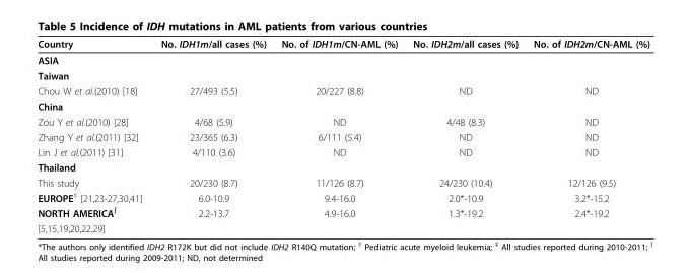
<table><thead><tr><td>Country</td><td>No. IDH1m/all cases (%)</td><td>No. of IDH1m/CN-AML (%)</td><td>No. IDH2m/all cases (%)</td><td>No. of IDH2m/CN-AML (%)</td></tr></thead><tbody><tr><td colspan="5">ASIA</td></tr><tr><td colspan="5">Taiwan</td></tr><tr><td>Chou W et al.(2010) [18]</td><td>27/493 (5.5)</td><td>20/227 (8.8)</td><td>ND</td><td>ND</td></tr><tr><td colspan="5">China</td></tr><tr><td>Zou Y et al.(2010) [28]</td><td>4/68 (5.9)</td><td>ND</td><td>4/48 (8.3)</td><td>ND</td></tr><tr><td>Zhang Y et al.(2011) [32]</td><td>23/365 (6.3)</td><td>6/111 (5.4)</td><td>ND</td><td>ND</td></tr><tr><td>Lin J et al.(2011) [31]</td><td>4/110 (3.6)</td><td>ND</td><td>ND</td><td>ND</td></tr><tr><td colspan="5">Thailand</td></tr><tr><td>This study</td><td>20/230 (8.7)</td><td>11/126 (8.7)</td><td>24/230 (10.4)</td><td>12/126 (9.5)</td></tr><tr><td>EUROPE<sup>‡</sup> [21,23-27,30,41]</td><td>6.0-10.9</td><td>9.4-16.0</td><td>2.0*-10.9</td><td>3.2*-15.2</td></tr><tr><td>NORTH AMERICA<sup>∫</sup></td><td>2.2-13.7</td><td>4.9-16.0</td><td>1.3*-19.2</td><td>2.4*-19.2</td></tr><tr><td>[5,15,19,20,22,29]</td><td></td><td></td><td></td><td></td></tr></tbody></table>